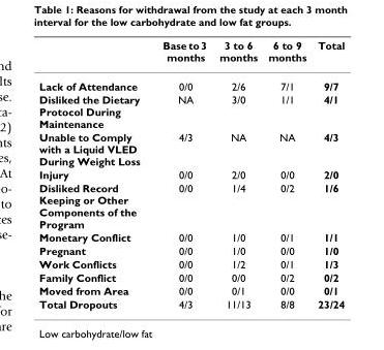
<table><thead><tr><td></td><td>Base to 3 months</td><td>3 to 6 months</td><td>6 to 9 months</td><td>Total</td></tr></thead><tbody><tr><td>Lack of Attendance</td><td>0/0</td><td>2/6</td><td>7/1</td><td>9/7</td></tr><tr><td>Disliked the Dietary Protocol During Maintenance</td><td>NA</td><td>3/0</td><td>1/1</td><td>4/1</td></tr><tr><td>Unable to Comply with a Liquid VLED During Weight Loss</td><td>4/3</td><td>NA</td><td>NA</td><td>4/3</td></tr><tr><td>Injury</td><td>0/0</td><td>2/0</td><td>0/0</td><td>2/0</td></tr><tr><td>Disliked Record Keeping or Other Components of the Program</td><td>0/0</td><td>1/4</td><td>0/2</td><td>1/6</td></tr><tr><td>Monetary Conflict</td><td>0/0</td><td>1/0</td><td>0/1</td><td>1/1</td></tr><tr><td>Pregnant</td><td>0/0</td><td>1/0</td><td>0/0</td><td>1/0</td></tr><tr><td>Work Conflicts</td><td>0/0</td><td>1/2</td><td>0/1</td><td>1/3</td></tr><tr><td>Family Conflict</td><td>0/0</td><td>0/0</td><td>0/2</td><td>0/2</td></tr><tr><td>Moved from Area</td><td>0/0</td><td>0/1</td><td>0/0</td><td>0/1</td></tr><tr><td>Total Dropouts</td><td>4/3</td><td>11/13</td><td>8/8</td><td>23/24</td></tr></tbody></table>